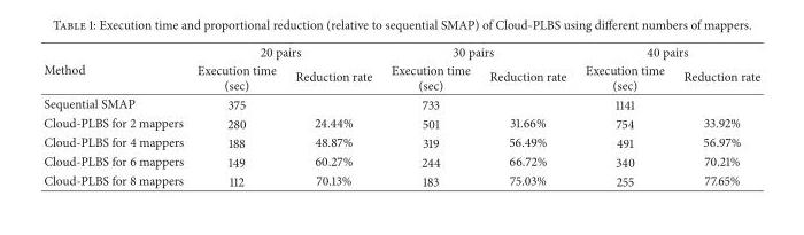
<table><thead><tr><td rowspan="2">Method</td><td colspan="2">20 pairs</td><td colspan="2">30 pairs</td><td colspan="2">40 pairs</td></tr><tr><td>Execution time (sec)</td><td>Reduction rate</td><td>Execution time (sec)</td><td>Reduction rate</td><td>Execution time (sec)</td><td>Reduction rate</td></tr></thead><tbody><tr><td>Sequential SMAP</td><td>375</td><td></td><td>733</td><td></td><td>1141</td><td></td></tr><tr><td>Cloud-PLBS for 2 mappers</td><td>280</td><td>24.44%</td><td>501</td><td>31.66%</td><td>754</td><td>33.92%</td></tr><tr><td>Cloud-PLBS for 4 mappers</td><td>188</td><td>48.87%</td><td>319</td><td>56.49%</td><td>491</td><td>56.97%</td></tr><tr><td>Cloud-PLBS for 6 mappers</td><td>149</td><td>60.27%</td><td>244</td><td>66.72%</td><td>340</td><td>70.21%</td></tr><tr><td>Cloud-PLBS for 8 mappers</td><td>112</td><td>70.13%</td><td>183</td><td>75.03%</td><td>255</td><td>77.65%</td></tr></tbody></table>